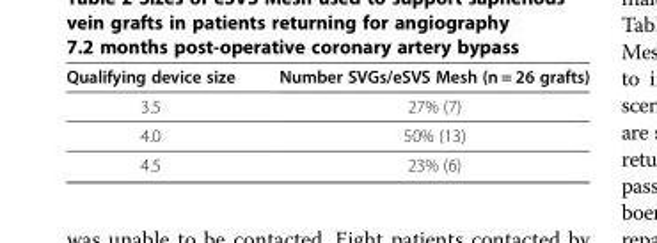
<table><thead><tr><td>Qualifying device size</td><td>Number SVGs/eSVS Mesh (n = 26 grafts)</td></tr></thead><tbody><tr><td>3.5</td><td>27% (7)</td></tr><tr><td>4.0</td><td>50% (13)</td></tr><tr><td>4.5</td><td>23% (6)</td></tr></tbody></table>